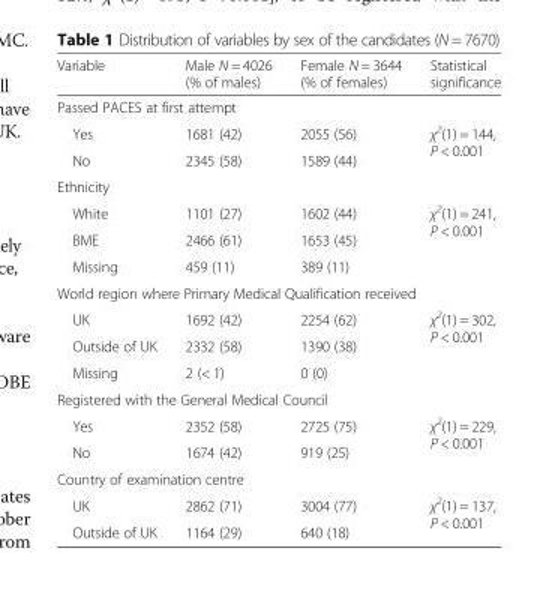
<table><thead><tr><td>Variable</td><td>Male N = 4026 (% of males)</td><td>Female N = 3644 (% of females)</td><td>Statistical significance</td></tr></thead><tbody><tr><td colspan="4">Passed PACES at first attempt</td></tr><tr><td>Yes</td><td>1681 (42)</td><td>2055 (56)</td><td rowspan="2">χ<sup>2</sup>(1) = 144, P &lt; 0.001</td></tr><tr><td>No</td><td>2345 (58)</td><td>1589 (44)</td></tr><tr><td colspan="4">Ethnicity</td></tr><tr><td>White</td><td>1101 (27)</td><td>1602 (44)</td><td rowspan="3">χ<sup>2</sup>(1) = 241, P &lt; 0.001</td></tr><tr><td>BME</td><td>2466 (61)</td><td>1653 (45)</td></tr><tr><td>Missing</td><td>459 (11)</td><td>389 (11)</td></tr><tr><td colspan="4">World region where Primary Medical Qualification received</td></tr><tr><td>UK</td><td>1692 (42)</td><td>2254 (62)</td><td rowspan="3">χ<sup>2</sup>(1) = 302, P &lt; 0.001</td></tr><tr><td>Outside of UK</td><td>2332 (58)</td><td>1390 (38)</td></tr><tr><td>Missing</td><td>2 (&lt; 1)</td><td>0 (0)</td></tr><tr><td colspan="4">Registered with the General Medical Council</td></tr><tr><td>Yes</td><td>2352 (58)</td><td>2725 (75)</td><td rowspan="2">χ<sup>2</sup>(1) = 229, P &lt; 0.001</td></tr><tr><td>No</td><td>1674 (42)</td><td>919 (25)</td></tr><tr><td colspan="4">Country of examination centre</td></tr><tr><td>UK</td><td>2862 (71)</td><td>3004 (77)</td><td rowspan="2">χ<sup>2</sup>(1) = 137, P &lt; 0.001</td></tr><tr><td>Outside of UK</td><td>1164 (29)</td><td>640 (18)</td></tr></tbody></table>